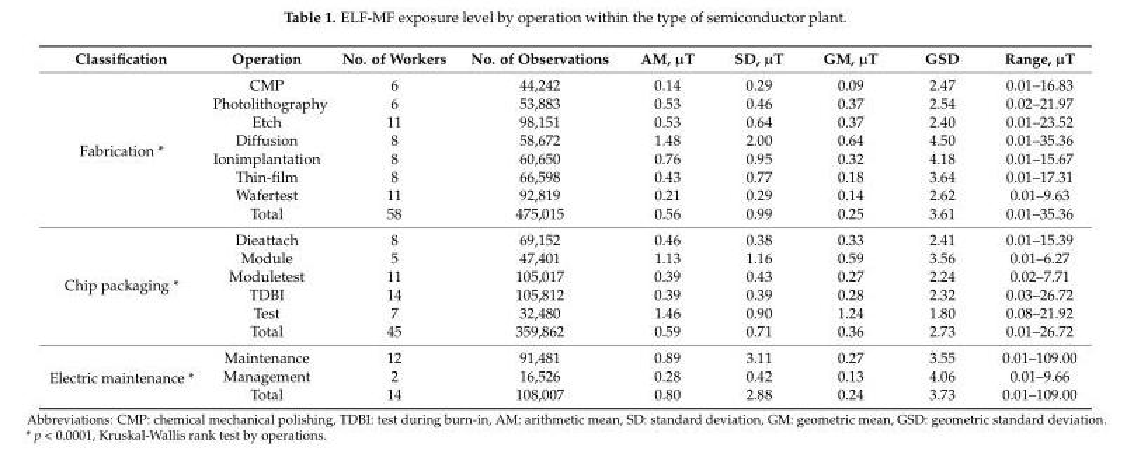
<table><thead><tr><td>Classification</td><td>Operation</td><td>No. of Workers</td><td>No. of Observations</td><td>AM, µT</td><td>SD, µT</td><td>GM, µT</td><td>GSD</td><td>Range, µT</td></tr></thead><tbody><tr><td rowspan="8">Fabrication *</td><td>CMP</td><td>6</td><td>44,242</td><td>0.14</td><td>0.29</td><td>0.09</td><td>2.47</td><td>0.01–16.83</td></tr><tr><td>Photolithography</td><td>6</td><td>53,883</td><td>0.53</td><td>0.46</td><td>0.37</td><td>2.54</td><td>0.02–21.97</td></tr><tr><td>Etch</td><td>11</td><td>98,151</td><td>0.53</td><td>0.64</td><td>0.37</td><td>2.40</td><td>0.01–23.52</td></tr><tr><td>Diffusion</td><td>8</td><td>58,672</td><td>1.48</td><td>2.00</td><td>0.64</td><td>4.50</td><td>0.01–35.36</td></tr><tr><td>Ionimplantation</td><td>8</td><td>60,650</td><td>0.76</td><td>0.95</td><td>0.32</td><td>4.18</td><td>0.01–15.67</td></tr><tr><td>Thin-film</td><td>8</td><td>66,598</td><td>0.43</td><td>0.77</td><td>0.18</td><td>3.64</td><td>0.01–17.31</td></tr><tr><td>Wafertest</td><td>11</td><td>92,819</td><td>0.21</td><td>0.29</td><td>0.14</td><td>2.62</td><td>0.01–9.63</td></tr><tr><td>Total</td><td>58</td><td>475,015</td><td>0.56</td><td>0.99</td><td>0.25</td><td>3.61</td><td>0.01–35.36</td></tr><tr><td rowspan="6">Chip packaging *</td><td>Dieattach</td><td>8</td><td>69,152</td><td>0.46</td><td>0.38</td><td>0.33</td><td>2.41</td><td>0.01–15.39</td></tr><tr><td>Module</td><td>5</td><td>47,401</td><td>1.13</td><td>1.16</td><td>0.59</td><td>3.56</td><td>0.01–6.27</td></tr><tr><td>Moduletest</td><td>11</td><td>105,017</td><td>0.39</td><td>0.43</td><td>0.27</td><td>2.24</td><td>0.02–7.71</td></tr><tr><td>TDBI</td><td>14</td><td>105,812</td><td>0.39</td><td>0.39</td><td>0.28</td><td>2.32</td><td>0.03–26.72</td></tr><tr><td>Test</td><td>7</td><td>32,480</td><td>1.46</td><td>0.90</td><td>1.24</td><td>1.80</td><td>0.08–21.92</td></tr><tr><td>Total</td><td>45</td><td>359,862</td><td>0.59</td><td>0.71</td><td>0.36</td><td>2.73</td><td>0.01–26.72</td></tr><tr><td rowspan="3">Electric maintenance *</td><td>Maintenance</td><td>12</td><td>91,481</td><td>0.89</td><td>3.11</td><td>0.27</td><td>3.55</td><td>0.01–109.00</td></tr><tr><td>Management</td><td>2</td><td>16,526</td><td>0.28</td><td>0.42</td><td>0.13</td><td>4.06</td><td>0.01–9.66</td></tr><tr><td>Total</td><td>14</td><td>108,007</td><td>0.80</td><td>2.88</td><td>0.24</td><td>3.73</td><td>0.01–109.00</td></tr></tbody></table>